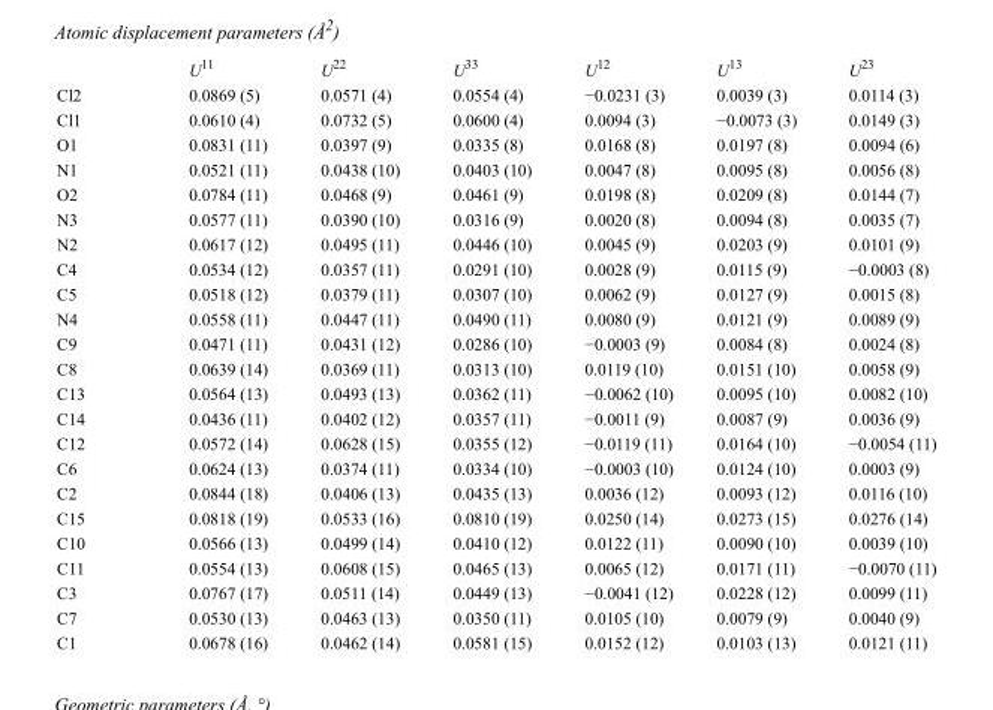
<table><thead><tr><td></td><td>U<sup>11</sup></td><td>U<sup>22</sup></td><td>U<sup>33</sup></td><td>U<sup>12</sup></td><td>U<sup>13</sup></td><td>U<sup>23</sup></td></tr></thead><tbody><tr><td>Cl2</td><td>0.0869 (5)</td><td>0.0571 (4)</td><td>0.0554 (4)</td><td>−0.0231 (3)</td><td>0.0039 (3)</td><td>0.0114 (3)</td></tr><tr><td>Cl1</td><td>0.0610 (4)</td><td>0.0732 (5)</td><td>0.0600 (4)</td><td>0.0094 (3)</td><td>−0.0073 (3)</td><td>0.0149 (3)</td></tr><tr><td>O1</td><td>0.0831 (11)</td><td>0.0397 (9)</td><td>0.0335 (8)</td><td>0.0168 (8)</td><td>0.0197 (8)</td><td>0.0094 (6)</td></tr><tr><td>N1</td><td>0.0521 (11)</td><td>0.0438 (10)</td><td>0.0403 (10)</td><td>0.0047 (8)</td><td>0.0095 (8)</td><td>0.0056 (8)</td></tr><tr><td>O2</td><td>0.0784 (11)</td><td>0.0468 (9)</td><td>0.0461 (9)</td><td>0.0198 (8)</td><td>0.0209 (8)</td><td>0.0144 (7)</td></tr><tr><td>N3</td><td>0.0577 (11)</td><td>0.0390 (10)</td><td>0.0316 (9)</td><td>0.0020 (8)</td><td>0.0094 (8)</td><td>0.0035 (7)</td></tr><tr><td>N2</td><td>0.0617 (12)</td><td>0.0495 (11)</td><td>0.0446 (10)</td><td>0.0045 (9)</td><td>0.0203 (9)</td><td>0.0101 (9)</td></tr><tr><td>C4</td><td>0.0534 (12)</td><td>0.0357 (11)</td><td>0.0291 (10)</td><td>0.0028 (9)</td><td>0.0115 (9)</td><td>−0.0003 (8)</td></tr><tr><td>C5</td><td>0.0518 (12)</td><td>0.0379 (11)</td><td>0.0307 (10)</td><td>0.0062 (9)</td><td>0.0127 (9)</td><td>0.0015 (8)</td></tr><tr><td>N4</td><td>0.0558 (11)</td><td>0.0447 (11)</td><td>0.0490 (11)</td><td>0.0080 (9)</td><td>0.0121 (9)</td><td>0.0089 (9)</td></tr><tr><td>C9</td><td>0.0471 (11)</td><td>0.0431 (12)</td><td>0.0286 (10)</td><td>−0.0003 (9)</td><td>0.0084 (8)</td><td>0.0024 (8)</td></tr><tr><td>C8</td><td>0.0639 (14)</td><td>0.0369 (11)</td><td>0.0313 (10)</td><td>0.0119 (10)</td><td>0.0151 (10)</td><td>0.0058 (9)</td></tr><tr><td>C13</td><td>0.0564 (13)</td><td>0.0493 (13)</td><td>0.0362 (11)</td><td>−0.0062 (10)</td><td>0.0095 (10)</td><td>0.0082 (10)</td></tr><tr><td>C14</td><td>0.0436 (11)</td><td>0.0402 (12)</td><td>0.0357 (11)</td><td>−0.0011 (9)</td><td>0.0087 (9)</td><td>0.0036 (9)</td></tr><tr><td>C12</td><td>0.0572 (14)</td><td>0.0628 (15)</td><td>0.0355 (12)</td><td>−0.0119 (11)</td><td>0.0164 (10)</td><td>−0.0054 (11)</td></tr><tr><td>C6</td><td>0.0624 (13)</td><td>0.0374 (11)</td><td>0.0334 (10)</td><td>−0.0003 (10)</td><td>0.0124 (10)</td><td>0.0003 (9)</td></tr><tr><td>C2</td><td>0.0844 (18)</td><td>0.0406 (13)</td><td>0.0435 (13)</td><td>0.0036 (12)</td><td>0.0093 (12)</td><td>0.0116 (10)</td></tr><tr><td>C15</td><td>0.0818 (19)</td><td>0.0533 (16)</td><td>0.0810 (19)</td><td>0.0250 (14)</td><td>0.0273 (15)</td><td>0.0276 (14)</td></tr><tr><td>C10</td><td>0.0566 (13)</td><td>0.0499 (14)</td><td>0.0410 (12)</td><td>0.0122 (11)</td><td>0.0090 (10)</td><td>0.0039 (10)</td></tr><tr><td>C11</td><td>0.0554 (13)</td><td>0.0608 (15)</td><td>0.0465 (13)</td><td>0.0065 (12)</td><td>0.0171 (11)</td><td>−0.0070 (11)</td></tr><tr><td>C3</td><td>0.0767 (17)</td><td>0.0511 (14)</td><td>0.0449 (13)</td><td>−0.0041 (12)</td><td>0.0228 (12)</td><td>0.0099 (11)</td></tr><tr><td>C7</td><td>0.0530 (13)</td><td>0.0463 (13)</td><td>0.0350 (11)</td><td>0.0105 (10)</td><td>0.0079 (9)</td><td>0.0040 (9)</td></tr><tr><td>C1</td><td>0.0678 (16)</td><td>0.0462 (14)</td><td>0.0581 (15)</td><td>0.0152 (12)</td><td>0.0103 (13)</td><td>0.0121 (11)</td></tr></tbody></table>